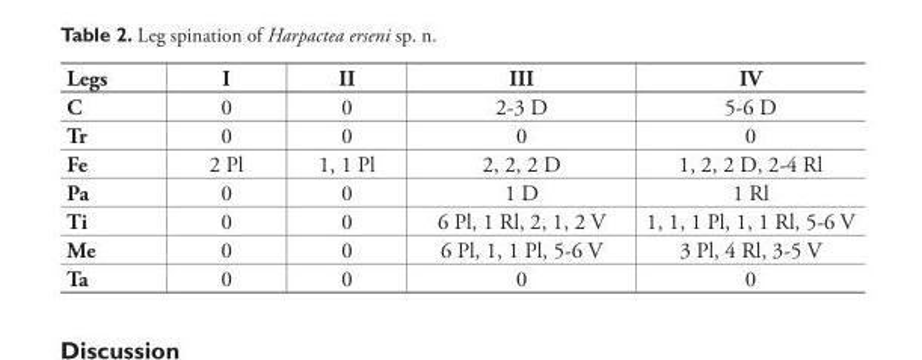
<table><thead><tr><td>Legs</td><td>I</td><td>II</td><td>III</td><td>IV</td></tr></thead><tbody><tr><td>C</td><td>0</td><td>0</td><td>2-3 D</td><td>5-6 D</td></tr><tr><td>Tr</td><td>0</td><td>0</td><td>0</td><td>0</td></tr><tr><td>Fe</td><td>2 Pl</td><td>1, 1 Pl</td><td>2, 2, 2 D</td><td>1, 2, 2 D, 2-4 Rl</td></tr><tr><td>Pa</td><td>0</td><td>0</td><td>1 D</td><td>1 Rl</td></tr><tr><td>Ti</td><td>0</td><td>0</td><td>6 Pl, 1 Rl, 2, 1, 2 V</td><td>1, 1, 1 Pl, 1, 1 Rl, 5-6 V</td></tr><tr><td>Me</td><td>0</td><td>0</td><td>6 Pl, 1, 1 Pl, 5-6 V</td><td>3 Pl, 4 Rl, 3-5 V</td></tr><tr><td>Ta</td><td>0</td><td>0</td><td>0</td><td>0</td></tr></tbody></table>